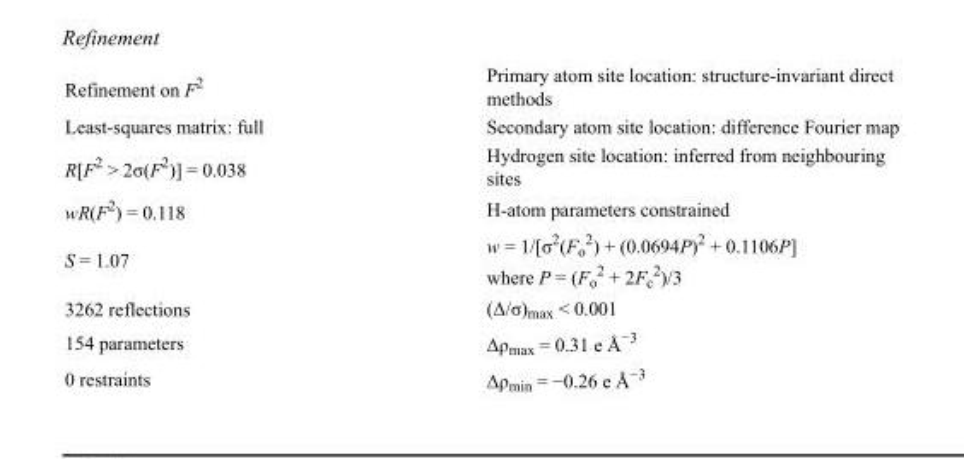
<table><tbody><tr><td>Refinement on F<sup>2</sup></td><td>Primary atom site location: structure-invariant direct methods</td></tr><tr><td>Least-squares matrix: full</td><td>Secondary atom site location: difference Fourier map</td></tr><tr><td>R[F<sup>2</sup> &gt; 2σ(F<sup>2</sup>)] = 0.038</td><td>Hydrogen site location: inferred from neighbouring sites</td></tr><tr><td>wR(F<sup>2</sup>) = 0.118</td><td>H-atom parameters constrained</td></tr><tr><td>S = 1.07</td><td>w = 1/[σ<sup>2</sup>(F<sub>o</sub> <sup>2</sup>) + (0.0694P)<sup>2</sup> + 0.1106P] where P = (F<sub>o</sub> <sup>2</sup> + 2F<sub>c</sub> <sup>2</sup>)/3</td></tr><tr><td>3262 reflections</td><td>(Δ/σ)<sub>max</sub> &lt; 0.001</td></tr><tr><td>154 parameters</td><td>Δρ<sub>max</sub> = 0.31 e Å<sup>−3</sup></td></tr><tr><td>0 restraints</td><td>Δρ<sub>min</sub> = −0.26 e Å<sup>−3</sup></td></tr></tbody></table>